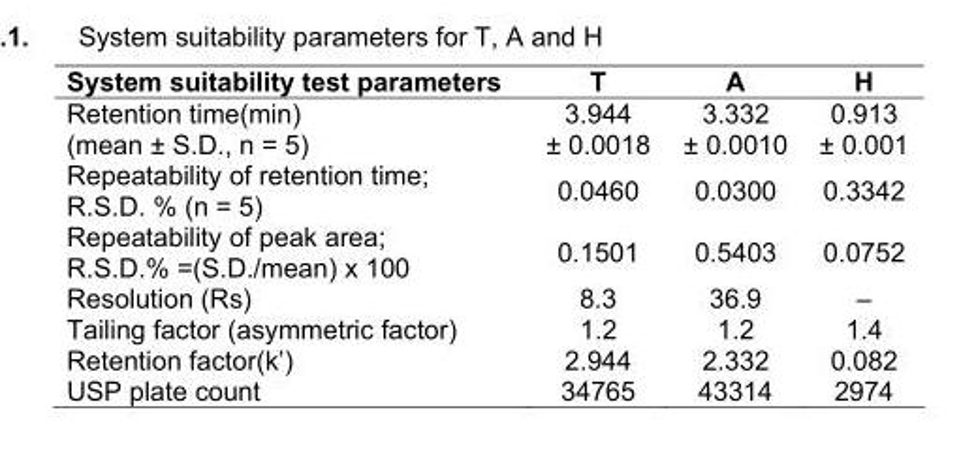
<table><thead><tr><td>System suitability test parameters</td><td>T</td><td>A</td><td>H</td></tr></thead><tbody><tr><td>Retention time(min) (mean ± S.D., n = 5)</td><td>3.944 ± 0.0018</td><td>3.332 ± 0.0010</td><td>0.913 ± 0.001</td></tr><tr><td>Repeatability of retention time; R.S.D. % (n = 5)</td><td>0.0460</td><td>0.0300</td><td>0.3342</td></tr><tr><td>Repeatability of peak area; R.S.D.% =(S.D./mean) x 100</td><td>0.1501</td><td>0.5403</td><td>0.0752</td></tr><tr><td>Resolution (Rs)</td><td>8.3</td><td>36.9</td><td>–</td></tr><tr><td>Tailing factor (asymmetric factor)</td><td>1.2</td><td>1.2</td><td>1.4</td></tr><tr><td>Retention factor(k’)</td><td>2.944</td><td>2.332</td><td>0.082</td></tr><tr><td>USP plate count</td><td>34765</td><td>43314</td><td>2974</td></tr></tbody></table>